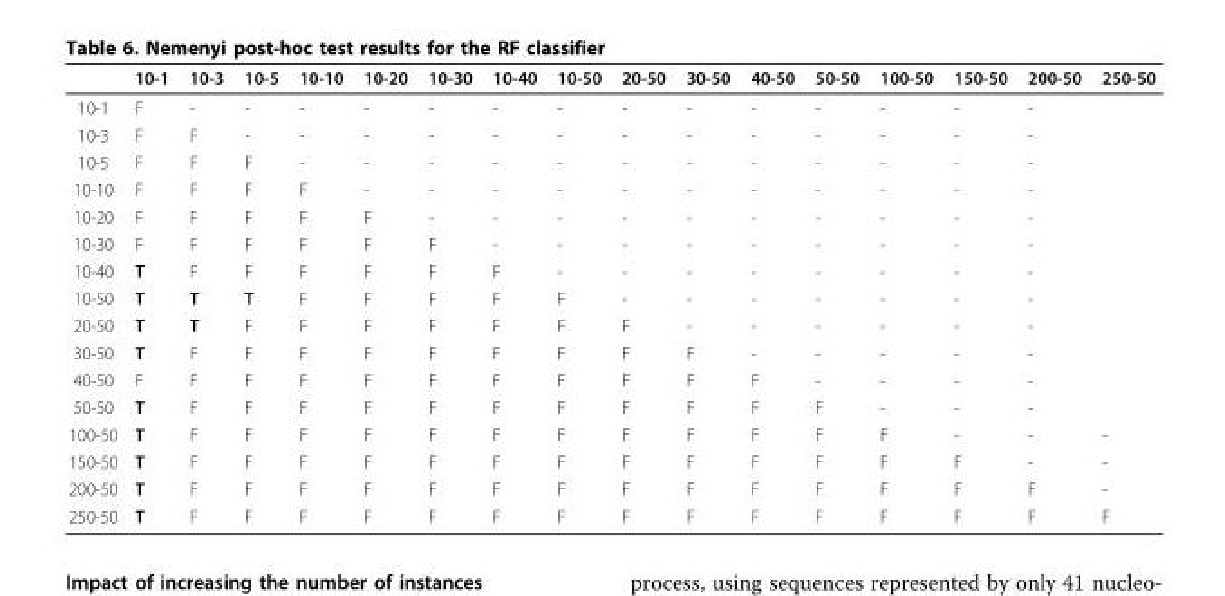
<table><thead><tr><td></td><td>10-1</td><td>10-3</td><td>10-5</td><td>10-10</td><td>10-20</td><td>10-30</td><td>10-40</td><td>10-50</td><td>20-50</td><td>30-50</td><td>40-50</td><td>50-50</td><td>100-50</td><td>150-50</td><td>200-50</td><td>250-50</td></tr></thead><tbody><tr><td>10-1</td><td>F</td><td>-</td><td>-</td><td>-</td><td>-</td><td>-</td><td>-</td><td>-</td><td>-</td><td>-</td><td>-</td><td>-</td><td>-</td><td>-</td><td>-</td><td></td></tr><tr><td>10-3</td><td>F</td><td>F</td><td>-</td><td>-</td><td>-</td><td>-</td><td>-</td><td>-</td><td>-</td><td>-</td><td>-</td><td>-</td><td>-</td><td>-</td><td>-</td><td></td></tr><tr><td>10-5</td><td>F</td><td>F</td><td>F</td><td>-</td><td>-</td><td>-</td><td>-</td><td>-</td><td>-</td><td>-</td><td>-</td><td>-</td><td>-</td><td>-</td><td>-</td><td></td></tr><tr><td>10-10</td><td>F</td><td>F</td><td>F</td><td>F</td><td>-</td><td>-</td><td>-</td><td>-</td><td>-</td><td>-</td><td>-</td><td>-</td><td>-</td><td>-</td><td>-</td><td></td></tr><tr><td>10-20</td><td>F</td><td>F</td><td>F</td><td>F</td><td>F</td><td>-</td><td>-</td><td>-</td><td>-</td><td>-</td><td>-</td><td>-</td><td>-</td><td>-</td><td>-</td><td></td></tr><tr><td>10-30</td><td>F</td><td>F</td><td>F</td><td>F</td><td>F</td><td>F</td><td>-</td><td>-</td><td>-</td><td>-</td><td>-</td><td>-</td><td>-</td><td>-</td><td>-</td><td></td></tr><tr><td>10-40</td><td>T</td><td>F</td><td>F</td><td>F</td><td>F</td><td>F</td><td>F</td><td>-</td><td>-</td><td>-</td><td>-</td><td>-</td><td>-</td><td>-</td><td>-</td><td></td></tr><tr><td>10-50</td><td>T</td><td>T</td><td>T</td><td>F</td><td>F</td><td>F</td><td>F</td><td>F</td><td>-</td><td>-</td><td>-</td><td>-</td><td>-</td><td>-</td><td>-</td><td></td></tr><tr><td>20-50</td><td>T</td><td>T</td><td>F</td><td>F</td><td>F</td><td>F</td><td>F</td><td>F</td><td>F</td><td>-</td><td>-</td><td>-</td><td>-</td><td>-</td><td>-</td><td></td></tr><tr><td>30-50</td><td>T</td><td>F</td><td>F</td><td>F</td><td>F</td><td>F</td><td>F</td><td>F</td><td>F</td><td>F</td><td>-</td><td>-</td><td>-</td><td>-</td><td>-</td><td></td></tr><tr><td>40-50</td><td>F</td><td>F</td><td>F</td><td>F</td><td>F</td><td>F</td><td>F</td><td>F</td><td>F</td><td>F</td><td>F</td><td>-</td><td>-</td><td>-</td><td>-</td><td></td></tr><tr><td>50-50</td><td>T</td><td>F</td><td>F</td><td>F</td><td>F</td><td>F</td><td>F</td><td>F</td><td>F</td><td>F</td><td>F</td><td>F</td><td>-</td><td>-</td><td>-</td><td></td></tr><tr><td>100-50</td><td>T</td><td>F</td><td>F</td><td>F</td><td>F</td><td>F</td><td>F</td><td>F</td><td>F</td><td>F</td><td>F</td><td>F</td><td>F</td><td>-</td><td>-</td><td>-</td></tr><tr><td>150-50</td><td>T</td><td>F</td><td>F</td><td>F</td><td>F</td><td>F</td><td>F</td><td>F</td><td>F</td><td>F</td><td>F</td><td>F</td><td>F</td><td>F</td><td>-</td><td>-</td></tr><tr><td>200-50</td><td>T</td><td>F</td><td>F</td><td>F</td><td>F</td><td>F</td><td>F</td><td>F</td><td>F</td><td>F</td><td>F</td><td>F</td><td>F</td><td>F</td><td>F</td><td>-</td></tr><tr><td>250-50</td><td>T</td><td>F</td><td>F</td><td>F</td><td>F</td><td>F</td><td>F</td><td>F</td><td>F</td><td>F</td><td>F</td><td>F</td><td>F</td><td>F</td><td>F</td><td>F</td></tr></tbody></table>